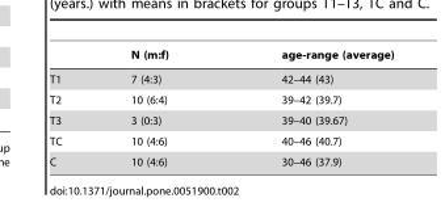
<table><thead><tr><td></td><td>N (m:f)</td><td>age-range (average)</td></tr></thead><tbody><tr><td>T1</td><td>7 (4:3)</td><td>42–44 (43)</td></tr><tr><td>T2</td><td>10 (6:4)</td><td>39–42 (39.7)</td></tr><tr><td>T3</td><td>3 (0:3)</td><td>39–40 (39.67)</td></tr><tr><td>TC</td><td>10 (4:6)</td><td>40–46 (40.7)</td></tr><tr><td>C</td><td>10 (4:6)</td><td>30–46 (37.9)</td></tr></tbody></table>